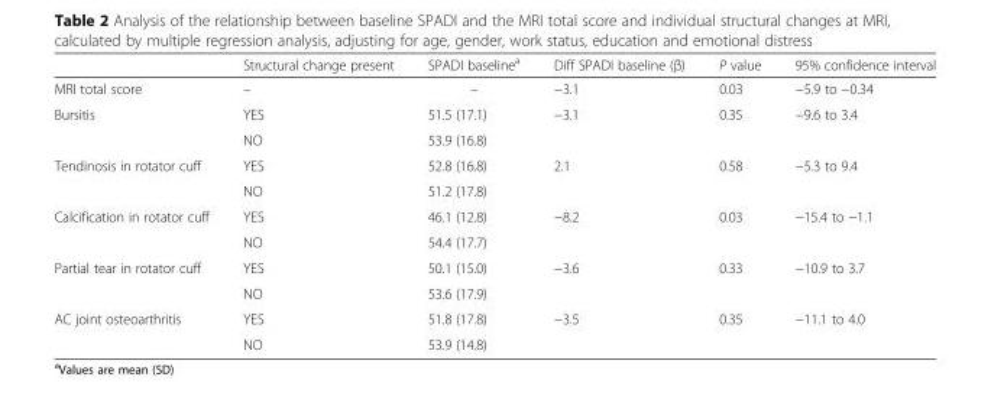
<table><thead><tr><td></td><td>Structural change present</td><td>SPADI baseline<sup>a</sup></td><td>Diff SPADI baseline (β)</td><td>P value</td><td>95% confidence interval</td></tr></thead><tbody><tr><td>MRI total score</td><td>–</td><td>–</td><td>−3.1</td><td>0.03</td><td>−5.9 to −0.34</td></tr><tr><td rowspan="2">Bursitis</td><td>YES</td><td>51.5 (17.1)</td><td rowspan="2">−3.1</td><td rowspan="2">0.35</td><td rowspan="2">−9.6 to 3.4</td></tr><tr><td>NO</td><td>53.9 (16.8)</td></tr><tr><td rowspan="2">Tendinosis in rotator cuff</td><td>YES</td><td>52.8 (16.8)</td><td rowspan="2">2.1</td><td rowspan="2">0.58</td><td rowspan="2">−5.3 to 9.4</td></tr><tr><td>NO</td><td>51.2 (17.8)</td></tr><tr><td rowspan="2">Calcification in rotator cuff</td><td>YES</td><td>46.1 (12.8)</td><td rowspan="2">−8.2</td><td rowspan="2">0.03</td><td rowspan="2">−15.4 to −1.1</td></tr><tr><td>NO</td><td>54.4 (17.7)</td></tr><tr><td rowspan="2">Partial tear in rotator cuff</td><td>YES</td><td>50.1 (15.0)</td><td rowspan="2">−3.6</td><td rowspan="2">0.33</td><td rowspan="2">−10.9 to 3.7</td></tr><tr><td>NO</td><td>53.6 (17.9)</td></tr><tr><td rowspan="2">AC joint osteoarthritis</td><td>YES</td><td>51.8 (17.8)</td><td rowspan="2">−3.5</td><td rowspan="2">0.35</td><td rowspan="2">−11.1 to 4.0</td></tr><tr><td>NO</td><td>53.9 (14.8)</td></tr></tbody></table>